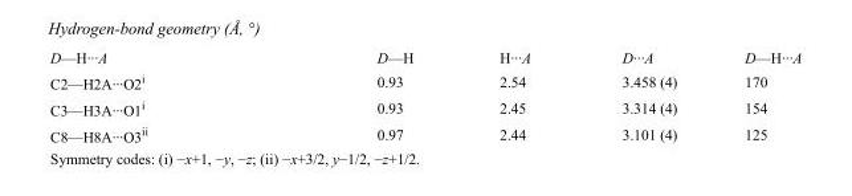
<table><tbody><tr><td>D—H···A</td><td>D—H</td><td>H···A</td><td>D···A</td><td>D—H···A</td></tr><tr><td>C2—H2A···O2<sup>i</sup></td><td>0.93</td><td>2.54</td><td>3.458 (4)</td><td>170</td></tr><tr><td>C3—H3A···O1<sup>i</sup></td><td>0.93</td><td>2.45</td><td>3.314 (4)</td><td>154</td></tr><tr><td>C8—H8A···O3<sup>ii</sup></td><td>0.97</td><td>2.44</td><td>3.101 (4)</td><td>125</td></tr></tbody></table>